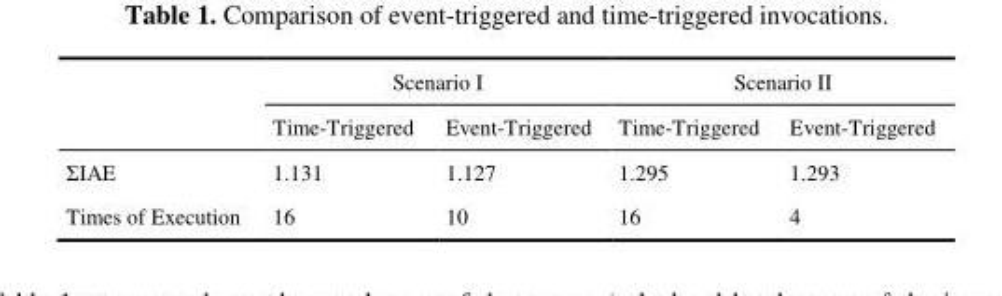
<table><thead><tr><td rowspan="2"></td><td colspan="2">Scenario I</td><td colspan="2">Scenario II</td></tr><tr><td>Time-Triggered</td><td>Event-Triggered</td><td>Time-Triggered</td><td>Event-Triggered</td></tr></thead><tbody><tr><td>ΣIAE</td><td>1.131</td><td>1.127</td><td>1.295</td><td>1.293</td></tr><tr><td>Times of Execution</td><td>16</td><td>10</td><td>16</td><td>4</td></tr></tbody></table>